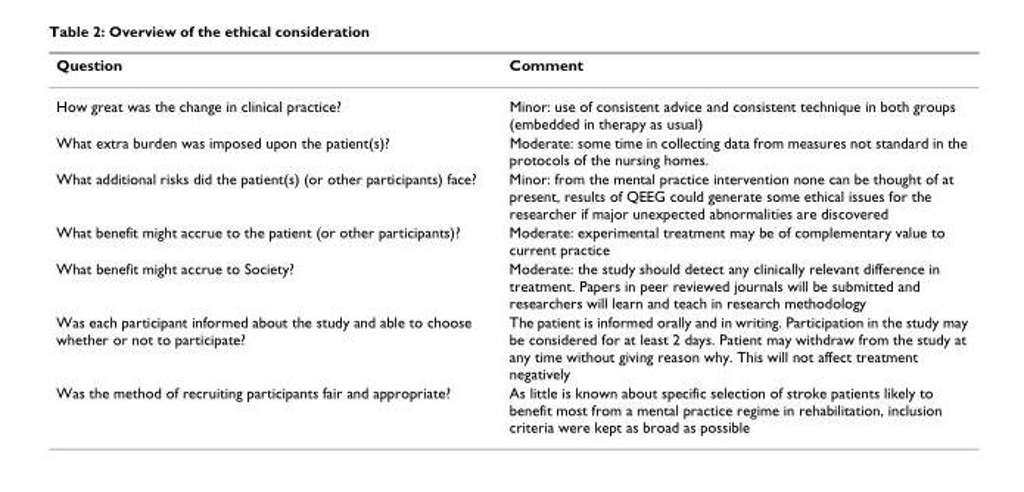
<table><thead><tr><td>Question</td><td>Comment</td></tr></thead><tbody><tr><td>How great was the change in clinical practice?</td><td>Minor: use of consistent advice and consistent technique in both groups (embedded in therapy as usual)</td></tr><tr><td>What extra burden was imposed upon the patient(s)?</td><td>Moderate: some time in collecting data from measures not standard in the protocols of the nursing homes.</td></tr><tr><td>What additional risks did the patient(s) (or other participants) face?</td><td>Minor: from the mental practice intervention none can be thought of at present, results of QEEG could generate some ethical issues for the researcher if major unexpected abnormalities are discovered</td></tr><tr><td>What benefit might accrue to the patient (or other participants)?</td><td>Moderate: experimental treatment may be of complementary value to current practice</td></tr><tr><td>What benefit might accrue to Society?</td><td>Moderate: the study should detect any clinically relevant difference in treatment. Papers in peer reviewed journals will be submitted and researchers will learn and teach in research methodology</td></tr><tr><td>Was each participant informed about the study and able to choose whether or not to participate?</td><td>The patient is informed orally and in writing. Participation in the study may be considered for at least 2 days. Patient may withdraw from the study at any time without giving reason why. This will not affect treatment negatively</td></tr><tr><td>Was the method of recruiting participants fair and appropriate?</td><td>As little is known about specific selection of stroke patients likely to benefit most from a mental practice regime in rehabilitation, inclusion criteria were kept as broad as possible</td></tr></tbody></table>